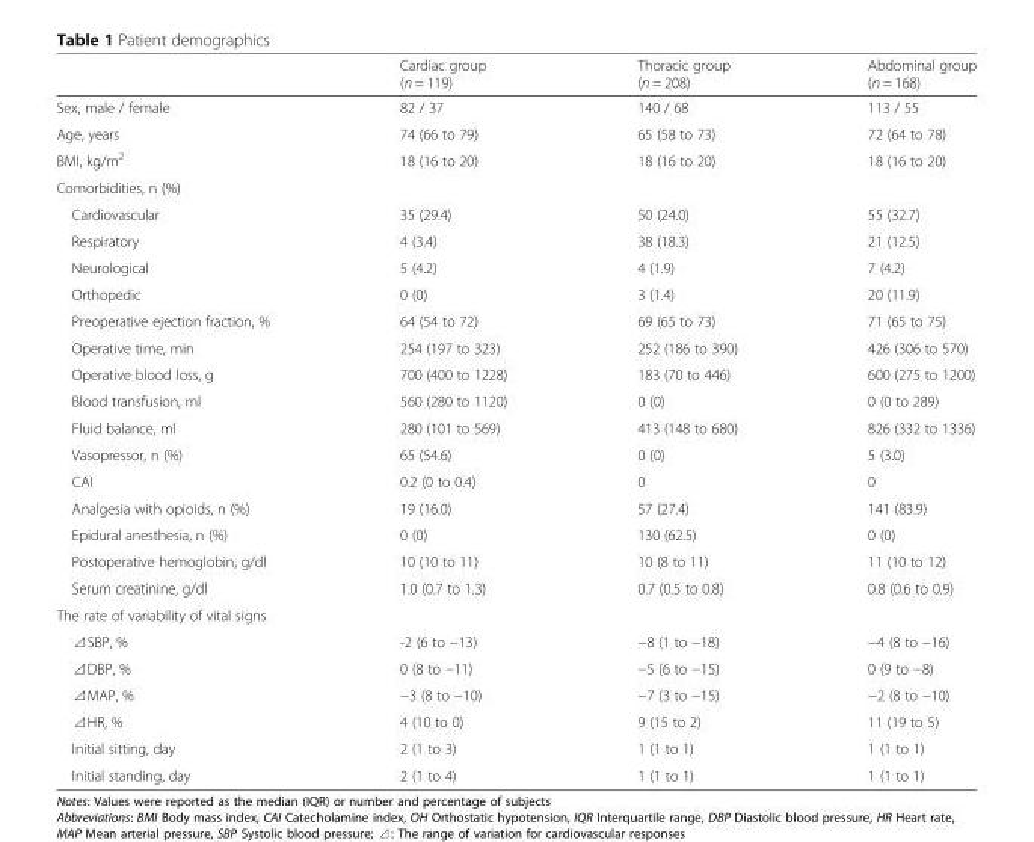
<table><thead><tr><td></td><td>Cardiac group (n = 119)</td><td>Thoracic group (n = 208)</td><td>Abdominal group (n = 168)</td></tr></thead><tbody><tr><td>Sex, male / female</td><td>82 / 37</td><td>140 / 68</td><td>113 / 55</td></tr><tr><td>Age, years</td><td>74 (66 to 79)</td><td>65 (58 to 73)</td><td>72 (64 to 78)</td></tr><tr><td>BMI, kg/m<sup>2</sup></td><td>18 (16 to 20)</td><td>18 (16 to 20)</td><td>18 (16 to 20)</td></tr><tr><td colspan="4">Comorbidities, n (%)</td></tr><tr><td>Cardiovascular</td><td>35 (29.4)</td><td>50 (24.0)</td><td>55 (32.7)</td></tr><tr><td>Respiratory</td><td>4 (3.4)</td><td>38 (18.3)</td><td>21 (12.5)</td></tr><tr><td>Neurological</td><td>5 (4.2)</td><td>4 (1.9)</td><td>7 (4.2)</td></tr><tr><td>Orthopedic</td><td>0 (0)</td><td>3 (1.4)</td><td>20 (11.9)</td></tr><tr><td>Preoperative ejection fraction, %</td><td>64 (54 to 72)</td><td>69 (65 to 73)</td><td>71 (65 to 75)</td></tr><tr><td>Operative time, min</td><td>254 (197 to 323)</td><td>252 (186 to 390)</td><td>426 (306 to 570)</td></tr><tr><td>Operative blood loss, g</td><td>700 (400 to 1228)</td><td>183 (70 to 446)</td><td>600 (275 to 1200)</td></tr><tr><td>Blood transfusion, ml</td><td>560 (280 to 1120)</td><td>0 (0)</td><td>0 (0 to 289)</td></tr><tr><td>Fluid balance, ml</td><td>280 (101 to 569)</td><td>413 (148 to 680)</td><td>826 (332 to 1336)</td></tr><tr><td>Vasopressor, n (%)</td><td>65 (54.6)</td><td>0 (0)</td><td>5 (3.0)</td></tr><tr><td>CAI</td><td>0.2 (0 to 0.4)</td><td>0</td><td>0</td></tr><tr><td>Analgesia with opioids, n (%)</td><td>19 (16.0)</td><td>57 (27.4)</td><td>141 (83.9)</td></tr><tr><td>Epidural anesthesia, n (%)</td><td>0 (0)</td><td>130 (62.5)</td><td>0 (0)</td></tr><tr><td>Postoperative hemoglobin, g/dl</td><td>10 (10 to 11)</td><td>10 (8 to 11)</td><td>11 (10 to 12)</td></tr><tr><td>Serum creatinine, g/dl</td><td>1.0 (0.7 to 1.3)</td><td>0.7 (0.5 to 0.8)</td><td>0.8 (0.6 to 0.9)</td></tr><tr><td colspan="4">The rate of variability of vital signs</td></tr><tr><td>⊿SBP, %</td><td>-2 (6 to −13)</td><td>−8 (1 to −18)</td><td>−4 (8 to −16)</td></tr><tr><td>⊿DBP, %</td><td>0 (8 to −11)</td><td>−5 (6 to −15)</td><td>0 (9 to −8)</td></tr><tr><td>⊿MAP, %</td><td>−3 (8 to −10)</td><td>−7 (3 to −15)</td><td>−2 (8 to −10)</td></tr><tr><td>⊿HR, %</td><td>4 (10 to 0)</td><td>9 (15 to 2)</td><td>11 (19 to 5)</td></tr><tr><td>Initial sitting, day</td><td>2 (1 to 3)</td><td>1 (1 to 1)</td><td>1 (1 to 1)</td></tr><tr><td>Initial standing, day</td><td>2 (1 to 4)</td><td>1 (1 to 1)</td><td>1 (1 to 1)</td></tr></tbody></table>